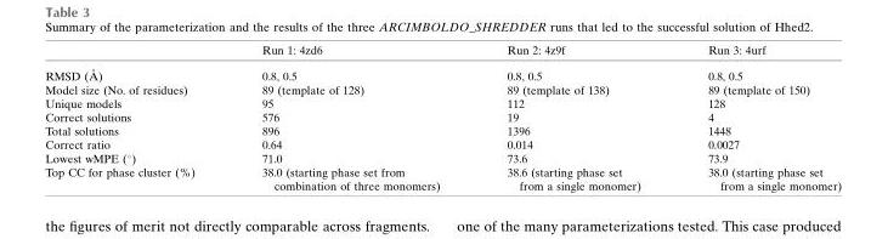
<table><thead><tr><td></td><td>Run 1: 4zd6</td><td>Run 2: 4z9f</td><td>Run 3: 4urf</td></tr></thead><tbody><tr><td>RMSD (A˚ )</td><td>0.8, 0.5</td><td>0.8, 0.5</td><td>0.8, 0.5</td></tr><tr><td>Model size (No. of residues)</td><td>89 (template of 128)</td><td>89 (template of 138)</td><td>89 (template of 150)</td></tr><tr><td>Unique models</td><td>95</td><td>112</td><td>128</td></tr><tr><td>Correct solutions</td><td>576</td><td>19</td><td>4</td></tr><tr><td>Total solutions</td><td>896</td><td>1396</td><td>1448</td></tr><tr><td>Correct ratio</td><td>0.64</td><td>0.014</td><td>0.0027</td></tr><tr><td>Lowest wMPE (°)</td><td>71.0</td><td>73.6</td><td>73.9</td></tr><tr><td>Top CC for phase cluster (%)</td><td>38.0 (starting phase set from combination of three monomers)</td><td>38.6 (starting phase set from a single monomer)</td><td>38.0 (starting phase set from a single monomer)</td></tr></tbody></table>